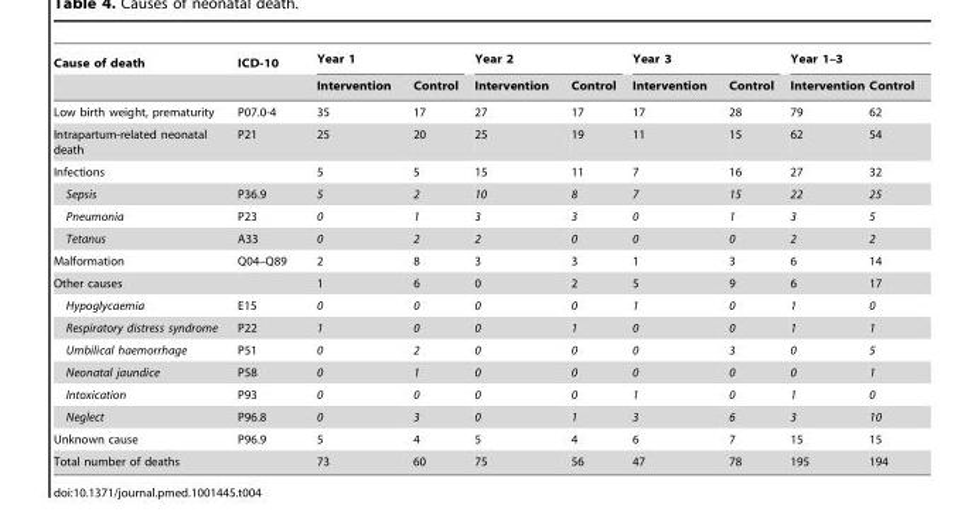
<table><thead><tr><td rowspan="2">Cause of death</td><td rowspan="2">ICD-10</td><td colspan="2">Year 1</td><td colspan="2">Year 2</td><td colspan="2">Year 3</td><td colspan="2">Year 1–3</td></tr><tr><td>Intervention</td><td>Control</td><td>Intervention</td><td>Control</td><td>Intervention</td><td>Control</td><td>Intervention</td><td>Control</td></tr></thead><tbody><tr><td>Low birth weight, prematurity</td><td>P07.0-4</td><td>35</td><td>17</td><td>27</td><td>17</td><td>17</td><td>28</td><td>79</td><td>62</td></tr><tr><td>Intrapartum-related neonatal death</td><td>P21</td><td>25</td><td>20</td><td>25</td><td>19</td><td>11</td><td>15</td><td>62</td><td>54</td></tr><tr><td>Infections</td><td></td><td>5</td><td>5</td><td>15</td><td>11</td><td>7</td><td>16</td><td>27</td><td>32</td></tr><tr><td>Sepsis</td><td>P36.9</td><td>5</td><td>2</td><td>10</td><td>8</td><td>7</td><td>15</td><td>22</td><td>25</td></tr><tr><td>Pneumonia</td><td>P23</td><td>0</td><td>1</td><td>3</td><td>3</td><td>0</td><td>1</td><td>3</td><td>5</td></tr><tr><td>Tetanus</td><td>A33</td><td>0</td><td>2</td><td>2</td><td>0</td><td>0</td><td>0</td><td>2</td><td>2</td></tr><tr><td>Malformation</td><td>Q04–Q89</td><td>2</td><td>8</td><td>3</td><td>3</td><td>1</td><td>3</td><td>6</td><td>14</td></tr><tr><td>Other causes</td><td></td><td>1</td><td>6</td><td>0</td><td>2</td><td>5</td><td>9</td><td>6</td><td>17</td></tr><tr><td>Hypoglycaemia</td><td>E15</td><td>0</td><td>0</td><td>0</td><td>0</td><td>1</td><td>0</td><td>1</td><td>0</td></tr><tr><td>Respiratory distress syndrome</td><td>P22</td><td>1</td><td>0</td><td>0</td><td>1</td><td>0</td><td>0</td><td>1</td><td>1</td></tr><tr><td>Umbilical haemorrhage</td><td>P51</td><td>0</td><td>2</td><td>0</td><td>0</td><td>0</td><td>3</td><td>0</td><td>5</td></tr><tr><td>Neonatal jaundice</td><td>P58</td><td>0</td><td>1</td><td>0</td><td>0</td><td>0</td><td>0</td><td>0</td><td>1</td></tr><tr><td>Intoxication</td><td>P93</td><td>0</td><td>0</td><td>0</td><td>0</td><td>1</td><td>0</td><td>1</td><td>0</td></tr><tr><td>Neglect</td><td>P96.8</td><td>0</td><td>3</td><td>0</td><td>1</td><td>3</td><td>6</td><td>3</td><td>10</td></tr><tr><td>Unknown cause</td><td>P96.9</td><td>5</td><td>4</td><td>5</td><td>4</td><td>6</td><td>7</td><td>15</td><td>15</td></tr><tr><td>Total number of deaths</td><td></td><td>73</td><td>60</td><td>75</td><td>56</td><td>47</td><td>78</td><td>195</td><td>194</td></tr></tbody></table>